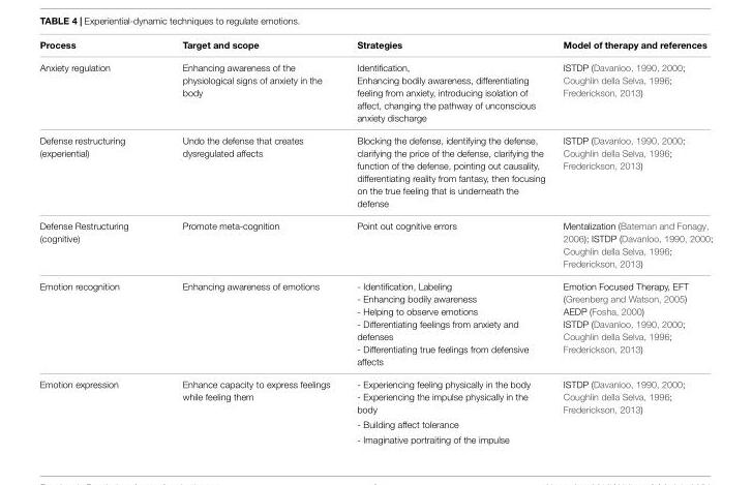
<table><thead><tr><td>Process</td><td>Target and scope</td><td>Strategies</td><td>Model of therapy and references</td></tr></thead><tbody><tr><td>Anxiety regulation</td><td>Enhancing awareness of the physiological signs of anxiety in the body</td><td>Identification, Enhancing bodily awareness, differentiating feeling from anxiety, introducing isolation of affect, changing the pathway of unconscious anxiety discharge</td><td>ISTDP (Davanloo, 1990, 2000; Coughlin della Selva, 1996; Frederickson, 2013)</td></tr><tr><td>Defense restructuring (experiential)</td><td>Undo the defense that creates dysregulated affects</td><td>Blocking the defense, identifying the defense, clarifying the price of the defense, clarifying the function of the defense, pointing out causality, differentiating reality from fantasy, then focusing on the true feeling that is underneath the defense</td><td>ISTDP (Davanloo, 1990, 2000; Coughlin della Selva, 1996; Frederickson, 2013)</td></tr><tr><td>Defense Restructuring (cognitive)</td><td>Promote meta-cognition</td><td>Point out cognitive errors</td><td>Mentalization (Bateman and Fonagy, 2006); ISTDP (Davanloo, 1990, 2000; Coughlin della Selva, 1996; Frederickson, 2013)</td></tr><tr><td>Emotion recognition</td><td>Enhancing awareness of emotions</td><td>- Identification, Labeling - Enhancing bodily awareness - Helping to observe emotions - Differentiating feelings from anxiety and defenses - Differentiating true feelings from defensive affects</td><td>Emotion Focused Therapy, EFT (Greenberg and Watson, 2005) AEDP (Fosha, 2000) ISTDP (Davanloo, 1990, 2000; Coughlin della Selva, 1996; Frederickson, 2013)</td></tr><tr><td rowspan="3">Emotion expression</td><td>Enhance capacity to express feelings while feeling them</td><td>- Experiencing feeling physically in the body - Experiencing the impulse physically in the body</td><td>ISTDP (Davanloo, 1990, 2000; Coughlin della Selva, 1996; Frederickson, 2013)</td></tr><tr><td></td><td>- Building affect tolerance</td><td></td></tr><tr><td></td><td>- Imaginative portraiting of the impulse</td><td></td></tr></tbody></table>